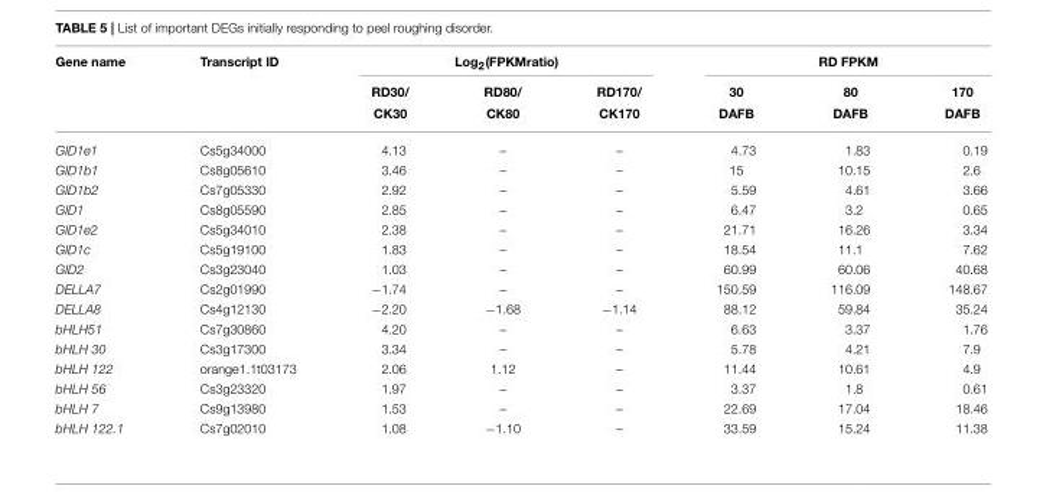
<table><thead><tr><td rowspan="2">Gene name</td><td rowspan="2">Transcript ID</td><td colspan="3">Log<sub>2</sub>(FPKMratio)</td><td colspan="3">RD FPKM</td></tr><tr><td>RD30/ CK30</td><td>RD80/ CK80</td><td>RD170/ CK170</td><td>30 DAFB</td><td>80 DAFB</td><td>170 DAFB</td></tr></thead><tbody><tr><td>GID1e1</td><td>Cs5g34000</td><td>4.13</td><td>–</td><td>–</td><td>4.73</td><td>1.83</td><td>0.19</td></tr><tr><td>GID1b1</td><td>Cs8g05610</td><td>3.46</td><td>–</td><td>–</td><td>15</td><td>10.15</td><td>2.6</td></tr><tr><td>GID1b2</td><td>Cs7g05330</td><td>2.92</td><td>–</td><td>–</td><td>5.59</td><td>4.61</td><td>3.66</td></tr><tr><td>GID1</td><td>Cs8g05590</td><td>2.85</td><td>–</td><td>–</td><td>6.47</td><td>3.2</td><td>0.65</td></tr><tr><td>GID1e2</td><td>Cs5g34010</td><td>2.38</td><td>–</td><td>–</td><td>21.71</td><td>16.26</td><td>3.34</td></tr><tr><td>GID1c</td><td>Cs5g19100</td><td>1.83</td><td>–</td><td>–</td><td>18.54</td><td>11.1</td><td>7.62</td></tr><tr><td>GID2</td><td>Cs3g23040</td><td>1.03</td><td>–</td><td>–</td><td>60.99</td><td>60.06</td><td>40.68</td></tr><tr><td>DELLA7</td><td>Cs2g01990</td><td>−1.74</td><td>–</td><td>–</td><td>150.59</td><td>116.09</td><td>148.67</td></tr><tr><td>DELLA8</td><td>Cs4g12130</td><td>−2.20</td><td>−1.68</td><td>−1.14</td><td>88.12</td><td>59.84</td><td>35.24</td></tr><tr><td>bHLH51</td><td>Cs7g30860</td><td>4.20</td><td>–</td><td>–</td><td>6.63</td><td>3.37</td><td>1.76</td></tr><tr><td>bHLH 30</td><td>Cs3g17300</td><td>3.34</td><td>–</td><td>–</td><td>5.78</td><td>4.21</td><td>7.9</td></tr><tr><td>bHLH 122</td><td>orange1.1t03173</td><td>2.06</td><td>1.12</td><td>–</td><td>11.44</td><td>10.61</td><td>4.9</td></tr><tr><td>bHLH 56</td><td>Cs3g23320</td><td>1.97</td><td>–</td><td>–</td><td>3.37</td><td>1.8</td><td>0.61</td></tr><tr><td>bHLH 7</td><td>Cs9g13980</td><td>1.53</td><td>–</td><td>–</td><td>22.69</td><td>17.04</td><td>18.46</td></tr><tr><td>bHLH 122.1</td><td>Cs7g02010</td><td>1.08</td><td>−1.10</td><td>–</td><td>33.59</td><td>15.24</td><td>11.38</td></tr></tbody></table>